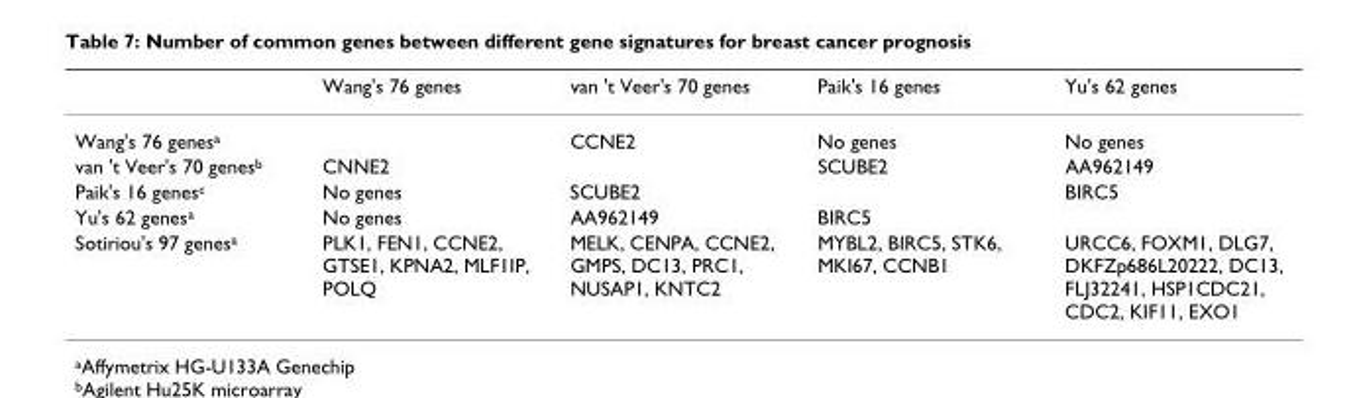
<table><thead><tr><td></td><td>Wang&#x27;s 76 genes</td><td>van &#x27;t Veer&#x27;s 70 genes</td><td>Paik&#x27;s 16 genes</td><td>Yu&#x27;s 62 genes</td></tr></thead><tbody><tr><td>Wang&#x27;s 76 genes<sup>a</sup></td><td></td><td>CCNE2</td><td>No genes</td><td>No genes</td></tr><tr><td>van &#x27;t Veer&#x27;s 70 genes<sup>b</sup></td><td>CNNE2</td><td></td><td>SCUBE2</td><td>AA962149</td></tr><tr><td>Paik&#x27;s 16 genes<sup>c</sup></td><td>No genes</td><td>SCUBE2</td><td></td><td>BIRC5</td></tr><tr><td>Yu&#x27;s 62 genes<sup>a</sup></td><td>No genes</td><td>AA962149</td><td>BIRC5</td><td></td></tr><tr><td>Sotiriou&#x27;s 97 genes<sup>a</sup></td><td>PLK1, FEN1, CCNE2, GTSE1, KPNA2, MLF1IP, POLQ</td><td>MELK, CENPA, CCNE2, GMPS, DC13, PRC1, NUSAP1, KNTC2</td><td>MYBL2, BIRC5, STK6, MKI67, CCNB1</td><td>URCC6, FOXM1, DLG7, DKFZp686L20222, DC13, FLJ32241, HSP1CDC21, CDC2, KIF11, EXO1</td></tr></tbody></table>